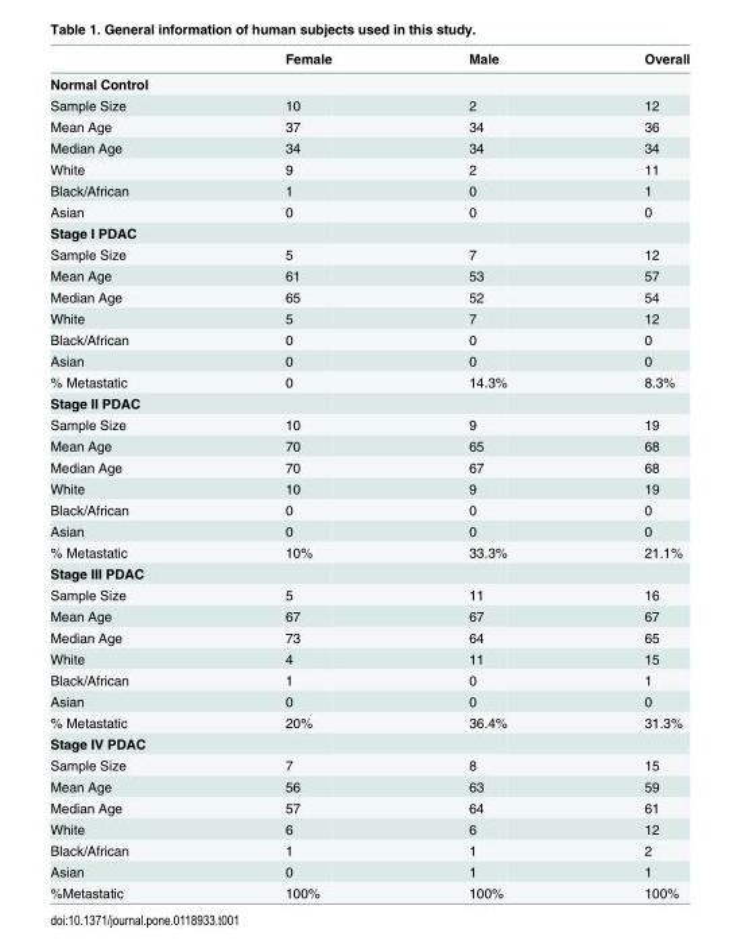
<table><thead><tr><td></td><td>Female</td><td>Male</td><td>Overall</td></tr></thead><tbody><tr><td colspan="4">Normal Control</td></tr><tr><td>Sample Size</td><td>10</td><td>2</td><td>12</td></tr><tr><td>Mean Age</td><td>37</td><td>34</td><td>36</td></tr><tr><td>Median Age</td><td>34</td><td>34</td><td>34</td></tr><tr><td>White</td><td>9</td><td>2</td><td>11</td></tr><tr><td>Black/African</td><td>1</td><td>0</td><td>1</td></tr><tr><td>Asian</td><td>0</td><td>0</td><td>0</td></tr><tr><td colspan="4">Stage I PDAC</td></tr><tr><td>Sample Size</td><td>5</td><td>7</td><td>12</td></tr><tr><td>Mean Age</td><td>61</td><td>53</td><td>57</td></tr><tr><td>Median Age</td><td>65</td><td>52</td><td>54</td></tr><tr><td>White</td><td>5</td><td>7</td><td>12</td></tr><tr><td>Black/African</td><td>0</td><td>0</td><td>0</td></tr><tr><td>Asian</td><td>0</td><td>0</td><td>0</td></tr><tr><td>% Metastatic</td><td>0</td><td>14.3%</td><td>8.3%</td></tr><tr><td colspan="4">Stage II PDAC</td></tr><tr><td>Sample Size</td><td>10</td><td>9</td><td>19</td></tr><tr><td>Mean Age</td><td>70</td><td>65</td><td>68</td></tr><tr><td>Median Age</td><td>70</td><td>67</td><td>68</td></tr><tr><td>White</td><td>10</td><td>9</td><td>19</td></tr><tr><td>Black/African</td><td>0</td><td>0</td><td>0</td></tr><tr><td>Asian</td><td>0</td><td>0</td><td>0</td></tr><tr><td>% Metastatic</td><td>10%</td><td>33.3%</td><td>21.1%</td></tr><tr><td colspan="4">Stage III PDAC</td></tr><tr><td>Sample Size</td><td>5</td><td>11</td><td>16</td></tr><tr><td>Mean Age</td><td>67</td><td>67</td><td>67</td></tr><tr><td>Median Age</td><td>73</td><td>64</td><td>65</td></tr><tr><td>White</td><td>4</td><td>11</td><td>15</td></tr><tr><td>Black/African</td><td>1</td><td>0</td><td>1</td></tr><tr><td>Asian</td><td>0</td><td>0</td><td>0</td></tr><tr><td>% Metastatic</td><td>20%</td><td>36.4%</td><td>31.3%</td></tr><tr><td colspan="4">Stage IV PDAC</td></tr><tr><td>Sample Size</td><td>7</td><td>8</td><td>15</td></tr><tr><td>Mean Age</td><td>56</td><td>63</td><td>59</td></tr><tr><td>Median Age</td><td>57</td><td>64</td><td>61</td></tr><tr><td>White</td><td>6</td><td>6</td><td>12</td></tr><tr><td>Black/African</td><td>1</td><td>1</td><td>2</td></tr><tr><td>Asian</td><td>0</td><td>1</td><td>1</td></tr><tr><td>%Metastatic</td><td>100%</td><td>100%</td><td>100%</td></tr></tbody></table>